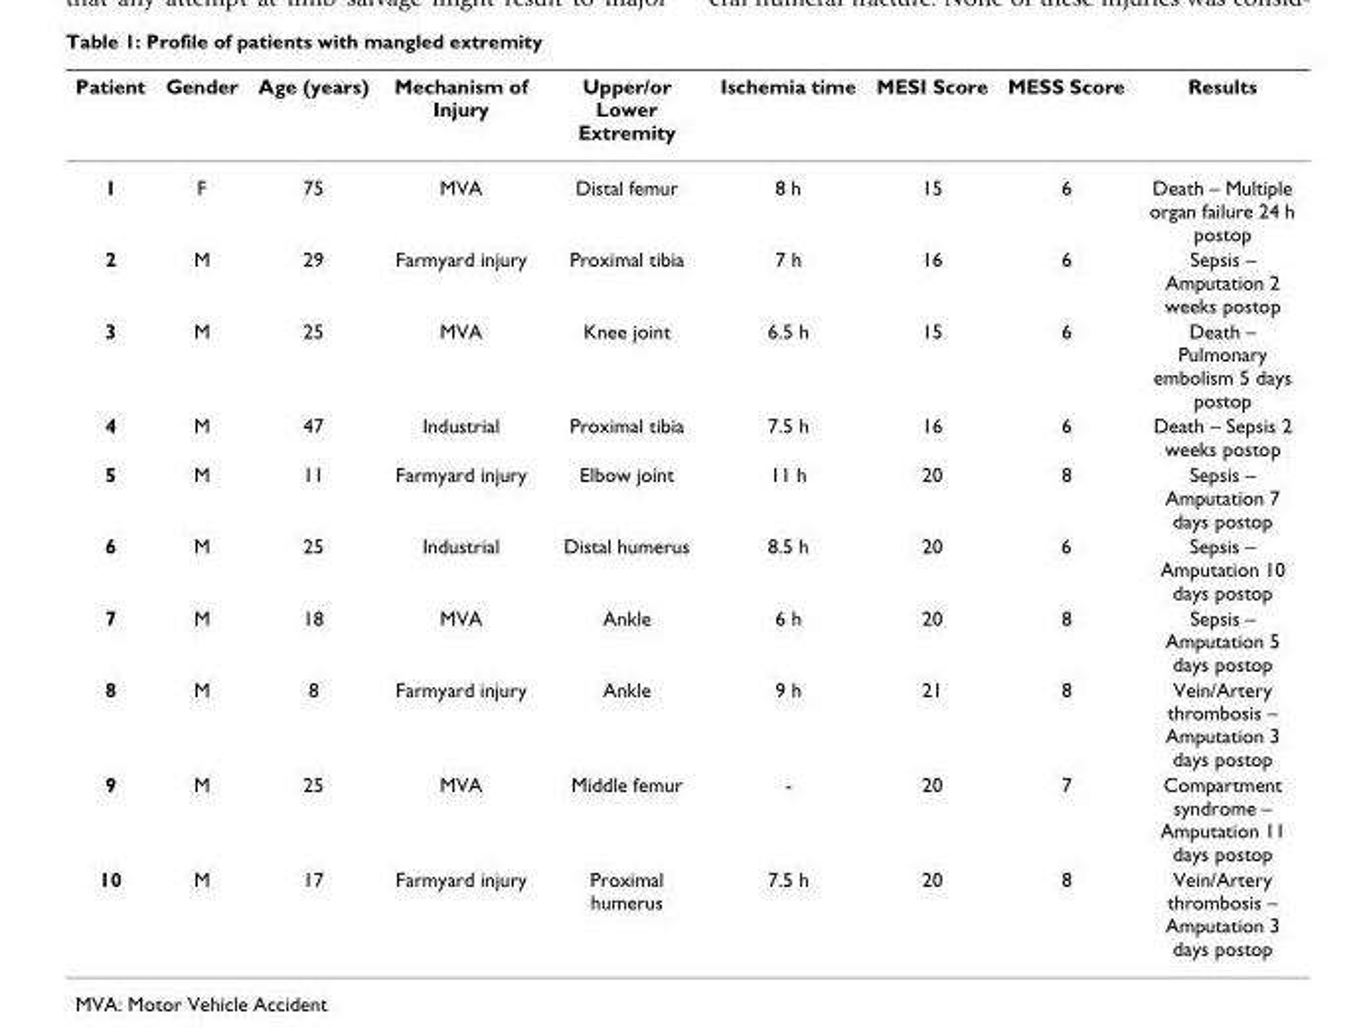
<table><thead><tr><td>Patient</td><td>Gender</td><td>Age (years)</td><td>Mechanism of Injury</td><td>Upper/or Lower Extremity</td><td>Ischemia time</td><td>MESI Score</td><td>MESS Score</td><td>Results</td></tr></thead><tbody><tr><td>1</td><td>F</td><td>75</td><td>MVA</td><td>Distal femur</td><td>8 h</td><td>15</td><td>6</td><td>Death – Multiple organ failure 24 h postop</td></tr><tr><td>2</td><td>M</td><td>29</td><td>Farmyard injury</td><td>Proximal tibia</td><td>7 h</td><td>16</td><td>6</td><td>Sepsis – Amputation 2 weeks postop</td></tr><tr><td>3</td><td>M</td><td>25</td><td>MVA</td><td>Knee joint</td><td>6.5 h</td><td>15</td><td>6</td><td>Death – Pulmonary embolism 5 days postop</td></tr><tr><td>4</td><td>M</td><td>47</td><td>Industrial</td><td>Proximal tibia</td><td>7.5 h</td><td>16</td><td>6</td><td>Death – Sepsis 2 weeks postop</td></tr><tr><td>5</td><td>M</td><td>11</td><td>Farmyard injury</td><td>Elbow joint</td><td>11 h</td><td>20</td><td>8</td><td>Sepsis – Amputation 7 days postop</td></tr><tr><td>6</td><td>M</td><td>25</td><td>Industrial</td><td>Distal humerus</td><td>8.5 h</td><td>20</td><td>6</td><td>Sepsis – Amputation 10 days postop</td></tr><tr><td>7</td><td>M</td><td>18</td><td>MVA</td><td>Ankle</td><td>6 h</td><td>20</td><td>8</td><td>Sepsis – Amputation 5 days postop</td></tr><tr><td>8</td><td>M</td><td>8</td><td>Farmyard injury</td><td>Ankle</td><td>9 h</td><td>21</td><td>8</td><td>Vein/Artery thrombosis – Amputation 3 days postop</td></tr><tr><td>9</td><td>M</td><td>25</td><td>MVA</td><td>Middle femur</td><td>-</td><td>20</td><td>7</td><td>Compartment syndrome – Amputation 11 days postop</td></tr><tr><td>10</td><td>M</td><td>17</td><td>Farmyard injury</td><td>Proximal humerus</td><td>7.5 h</td><td>20</td><td>8</td><td>Vein/Artery thrombosis – Amputation 3 days postop</td></tr></tbody></table>